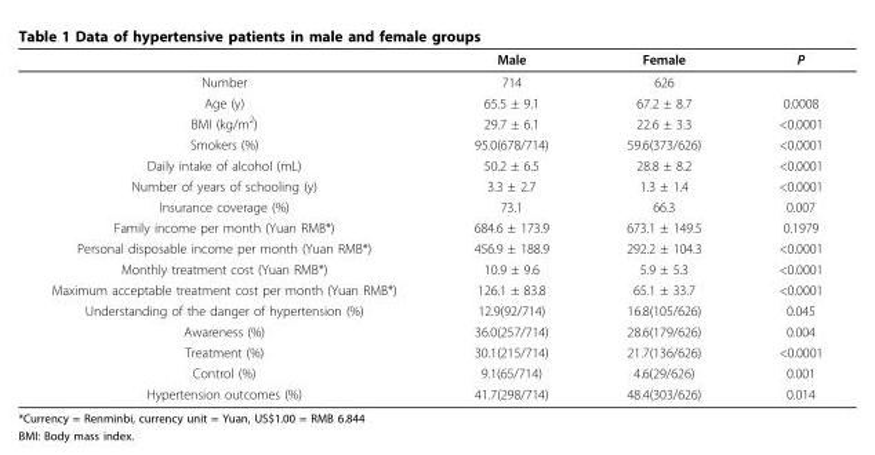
<table><thead><tr><td></td><td>Male</td><td>Female</td><td>P</td></tr></thead><tbody><tr><td>Number</td><td>714</td><td>626</td><td></td></tr><tr><td>Age (y)</td><td>65.5 ± 9.1</td><td>67.2 ± 8.7</td><td>0.0008</td></tr><tr><td>BMI (kg/m<sup>2</sup>)</td><td>29.7 ± 6.1</td><td>22.6 ± 3.3</td><td>&lt;0.0001</td></tr><tr><td>Smokers (%)</td><td>95.0(678/714)</td><td>59.6(373/626)</td><td>&lt;0.0001</td></tr><tr><td>Daily intake of alcohol (mL)</td><td>50.2 ± 6.5</td><td>28.8 ± 8.2</td><td>&lt;0.0001</td></tr><tr><td>Number of years of schooling (y)</td><td>3.3 ± 2.7</td><td>1.3 ± 1.4</td><td>&lt;0.0001</td></tr><tr><td>Insurance coverage (%)</td><td>73.1</td><td>66.3</td><td>0.007</td></tr><tr><td>Family income per month (Yuan RMB*)</td><td>684.6 ± 173.9</td><td>673.1 ± 149.5</td><td>0.1979</td></tr><tr><td>Personal disposable income per month (Yuan RMB*)</td><td>456.9 ± 188.9</td><td>292.2 ± 104.3</td><td>&lt;0.0001</td></tr><tr><td>Monthly treatment cost (Yuan RMB*)</td><td>10.9 ± 9.6</td><td>5.9 ± 5.3</td><td>&lt;0.0001</td></tr><tr><td>Maximum acceptable treatment cost per month (Yuan RMB*)</td><td>126.1 ± 83.8</td><td>65.1 ± 33.7</td><td>&lt;0.0001</td></tr><tr><td>Understanding of the danger of hypertension (%)</td><td>12.9(92/714)</td><td>16.8(105/626)</td><td>0.045</td></tr><tr><td>Awareness (%)</td><td>36.0(257/714)</td><td>28.6(179/626)</td><td>0.004</td></tr><tr><td>Treatment (%)</td><td>30.1(215/714)</td><td>21.7(136/626)</td><td>&lt;0.0001</td></tr><tr><td>Control (%)</td><td>9.1(65/714)</td><td>4.6(29/626)</td><td>0.001</td></tr><tr><td>Hypertension outcomes (%)</td><td>41.7(298/714)</td><td>48.4(303/626)</td><td>0.014</td></tr></tbody></table>